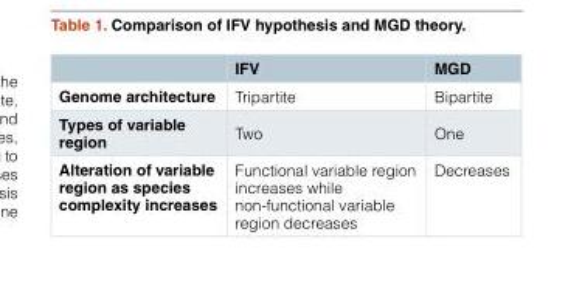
<table><thead><tr><td></td><td>IFV</td><td>MGD</td></tr></thead><tbody><tr><td>Genome architecture</td><td>Tripartite</td><td>Bipartite</td></tr><tr><td>Types of variable region</td><td>Two</td><td>One</td></tr><tr><td>Alteration of variable region as species complexity increases</td><td>Functional variable region increases while non-functional variable region decreases</td><td>Decreases</td></tr></tbody></table>